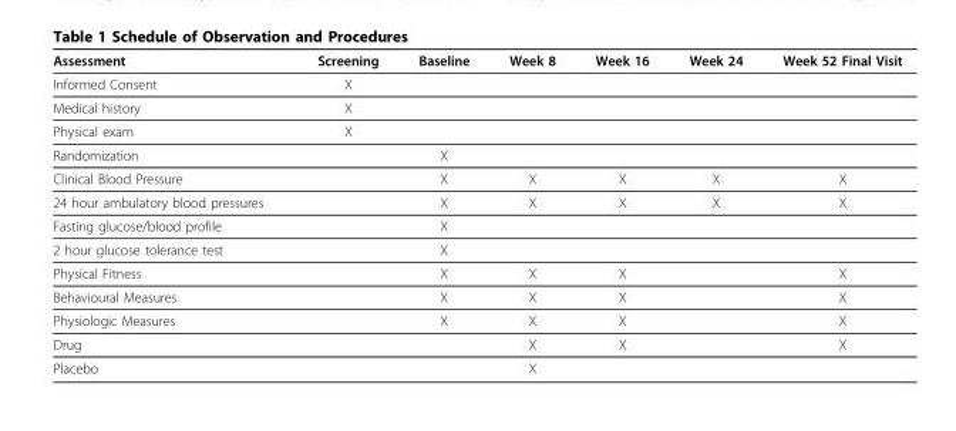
<table><thead><tr><td>Assessment</td><td>Screening</td><td>Baseline</td><td>Week 8</td><td>Week 16</td><td>Week 24</td><td>Week 52 Final Visit</td></tr></thead><tbody><tr><td>Informed Consent</td><td>X</td><td></td><td></td><td></td><td></td><td></td></tr><tr><td>Medical history</td><td>X</td><td></td><td></td><td></td><td></td><td></td></tr><tr><td>Physical exam</td><td>X</td><td></td><td></td><td></td><td></td><td></td></tr><tr><td>Randomization</td><td></td><td>X</td><td></td><td></td><td></td><td></td></tr><tr><td>Clinical Blood Pressure</td><td></td><td>X</td><td>X</td><td>X</td><td>X</td><td>X</td></tr><tr><td>24 hour ambulatory blood pressures</td><td></td><td>X</td><td>X</td><td>X</td><td>X</td><td>X</td></tr><tr><td>Fasting glucose/blood profile</td><td></td><td>X</td><td></td><td></td><td></td><td></td></tr><tr><td>2 hour glucose tolerance test</td><td></td><td>X</td><td></td><td></td><td></td><td></td></tr><tr><td>Physical Fitness</td><td></td><td>X</td><td>X</td><td>X</td><td></td><td>X</td></tr><tr><td>Behavioural Measures</td><td></td><td>X</td><td>X</td><td>X</td><td></td><td>X</td></tr><tr><td>Physiologic Measures</td><td></td><td>X</td><td>X</td><td>X</td><td></td><td>X</td></tr><tr><td>Drug</td><td></td><td></td><td>X</td><td>X</td><td></td><td>X</td></tr><tr><td>Placebo</td><td></td><td></td><td>X</td><td></td><td></td><td></td></tr></tbody></table>